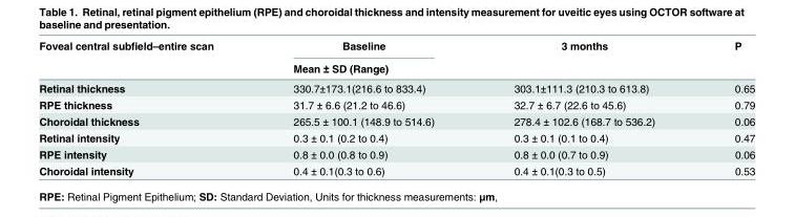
<table><thead><tr><td rowspan="2">Foveal central subfield–entire scan</td><td>Baseline</td><td>3 months</td><td rowspan="2">P</td></tr><tr><td colspan="2">Mean ± SD (Range)</td></tr></thead><tbody><tr><td>Retinal thickness</td><td>330.7±173.1(216.6 to 833.4)</td><td>303.1±111.3 (210.3 to 613.8)</td><td>0.65</td></tr><tr><td>RPE thickness</td><td>31.7 ± 6.6 (21.2 to 46.6)</td><td>32.7 ± 6.7 (22.6 to 45.6)</td><td>0.79</td></tr><tr><td>Choroidal thickness</td><td>265.5 ± 100.1 (148.9 to 514.6)</td><td>278.4 ± 102.6 (168.7 to 536.2)</td><td>0.06</td></tr><tr><td>Retinal intensity</td><td>0.3 ± 0.1 (0.2 to 0.4)</td><td>0.3 ± 0.1 (0.1 to 0.4)</td><td>0.47</td></tr><tr><td>RPE intensity</td><td>0.8 ± 0.0 (0.8 to 0.9)</td><td>0.8 ± 0.0 (0.7 to 0.9)</td><td>0.06</td></tr><tr><td>Choroidal intensity</td><td>0.4 ± 0.1(0.3 to 0.6)</td><td>0.4 ± 0.1(0.3 to 0.5)</td><td>0.53</td></tr></tbody></table>